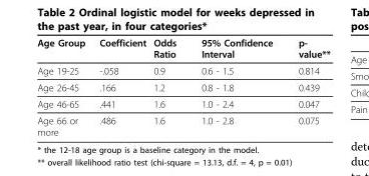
<table><thead><tr><td>Age Group</td><td>Coefficient</td><td>Odds Ratio</td><td>95% Confidence Interval</td><td>p- value**</td></tr></thead><tbody><tr><td>Age 19-25</td><td>-.058</td><td>0.9</td><td>0.6 - 1.5</td><td>0.814</td></tr><tr><td>Age 26-45</td><td>.166</td><td>1.2</td><td>0.8 - 1.8</td><td>0.439</td></tr><tr><td>Age 46-65</td><td>.441</td><td>1.6</td><td>1.0 - 2.4</td><td>0.047</td></tr><tr><td>Age 66 or more</td><td>.486</td><td>1.6</td><td>1.0 - 2.8</td><td>0.075</td></tr></tbody></table>